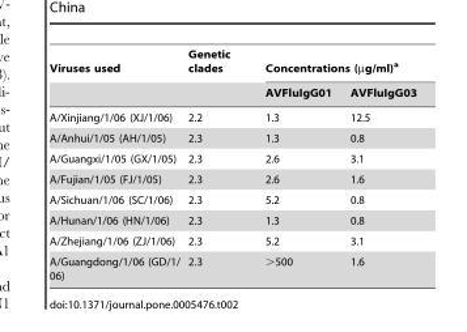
<table><thead><tr><td rowspan="2">Viruses used</td><td rowspan="2">Genetic clades</td><td colspan="2">Concentrations (µg/ml)<sup>a</sup></td></tr><tr><td>AVFluIgG01</td><td>AVFluIgG03</td></tr></thead><tbody><tr><td>A/Xinjiang/1/06 (XJ/1/06)</td><td>2.2</td><td>1.3</td><td>12.5</td></tr><tr><td>A/Anhui/1/05 (AH/1/05)</td><td>2.3</td><td>1.3</td><td>0.8</td></tr><tr><td>A/Guangxi/1/05 (GX/1/05)</td><td>2.3</td><td>2.6</td><td>3.1</td></tr><tr><td>A/Fujian/1/05 (FJ/1/05)</td><td>2.3</td><td>2.6</td><td>1.6</td></tr><tr><td>A/Sichuan/1/06 (SC/1/06)</td><td>2.3</td><td>5.2</td><td>0.8</td></tr><tr><td>A/Hunan/1/06 (HN/1/06)</td><td>2.3</td><td>1.3</td><td>0.8</td></tr><tr><td>A/Zhejiang/1/06 (ZJ/1/06)</td><td>2.3</td><td>5.2</td><td>3.1</td></tr><tr><td>A/Guangdong/1/06 (GD/1/ 06)</td><td>2.3</td><td>&gt;500</td><td>1.6</td></tr></tbody></table>